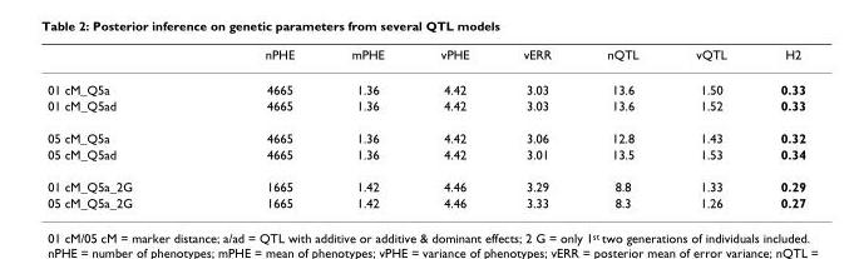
<table><thead><tr><td></td><td>nPHE</td><td>mPHE</td><td>vPHE</td><td>vERR</td><td>nQTL</td><td>vQTL</td><td>H2</td></tr></thead><tbody><tr><td>01 cM_Q5a</td><td>4665</td><td>1.36</td><td>4.42</td><td>3.03</td><td>13.6</td><td>1.50</td><td>0.33</td></tr><tr><td>01 cM_Q5ad</td><td>4665</td><td>1.36</td><td>4.42</td><td>3.03</td><td>13.6</td><td>1.52</td><td>0.33</td></tr><tr><td>05 cM_Q5a</td><td>4665</td><td>1.36</td><td>4.42</td><td>3.06</td><td>12.8</td><td>1.43</td><td>0.32</td></tr><tr><td>05 cM_Q5ad</td><td>4665</td><td>1.36</td><td>4.42</td><td>3.01</td><td>13.5</td><td>1.53</td><td>0.34</td></tr><tr><td>01 cM_Q5a_2G</td><td>1665</td><td>1.42</td><td>4.46</td><td>3.29</td><td>8.8</td><td>1.33</td><td>0.29</td></tr><tr><td>05 cM_Q5a_2G</td><td>1665</td><td>1.42</td><td>4.46</td><td>3.33</td><td>8.3</td><td>1.26</td><td>0.27</td></tr></tbody></table>